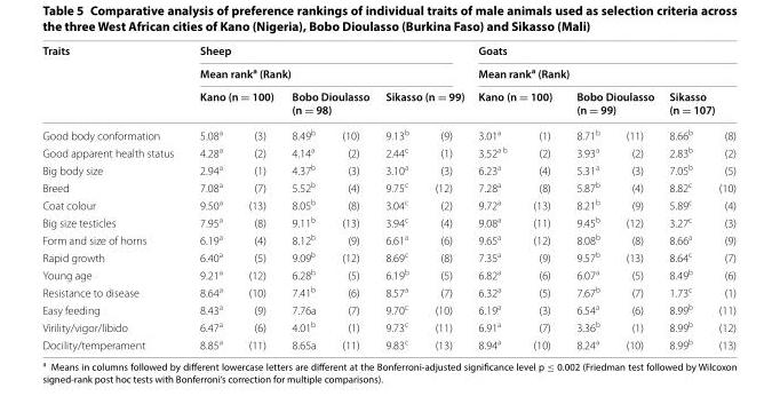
<table><thead><tr><td rowspan="4">Traits Good body conformation</td><td rowspan="2" colspan="6">Sheep Mean rank<sup>a</sup> (Rank)</td><td rowspan="2" colspan="6">Goats Mean rank<sup>a</sup> (Rank)</td></tr><tr></tr><tr><td colspan="2">Kano (n = 100)</td><td colspan="2">Bobo Dioulasso (n = 98)</td><td colspan="2">Sikasso (n = 99)</td><td colspan="2">Kano (n = 100)</td><td colspan="2">Bobo Dioulasso (n = 99)</td><td colspan="2">Sikasso (n = 107)</td></tr><tr><td>5.08<sup>a</sup></td><td>(3)</td><td>8.49<sup>b</sup></td><td>(10)</td><td>9.13<sup>b</sup></td><td>(9)</td><td>3.01<sup>a</sup></td><td>(1)</td><td>8.71<sup>b</sup></td><td>(11)</td><td>8.66<sup>b</sup></td><td>(8)</td></tr></thead><tbody><tr><td>Good apparent health status</td><td>4.28<sup>a</sup></td><td>(2)</td><td>4.14<sup>a</sup></td><td>(2)</td><td>2.44<sup>c</sup></td><td>(1)</td><td>3.52<sup>a b</sup></td><td>(2)</td><td>3.93<sup>a</sup></td><td>(2)</td><td>2.83<sup>b</sup></td><td>(2)</td></tr><tr><td>Big body size</td><td>2.94<sup>a</sup></td><td>(1)</td><td>4.37<sup>b</sup></td><td>(3)</td><td>3.10<sup>a</sup></td><td>(3)</td><td>6.23<sup>a</sup></td><td>(4)</td><td>5.31<sup>a</sup></td><td>(3)</td><td>7.05<sup>b</sup></td><td>(5)</td></tr><tr><td>Breed</td><td>7.08<sup>a</sup></td><td>(7)</td><td>5.52<sup>b</sup></td><td>(4)</td><td>9.75<sup>c</sup></td><td>(12)</td><td>7.28<sup>a</sup></td><td>(8)</td><td>5.87<sup>b</sup></td><td>(4)</td><td>8.82<sup>c</sup></td><td>(10)</td></tr><tr><td>Coat colour</td><td>9.50<sup>a</sup></td><td>(13)</td><td>8.05<sup>b</sup></td><td>(8)</td><td>3.04<sup>c</sup></td><td>(2)</td><td>9.72<sup>a</sup></td><td>(13)</td><td>8.21<sup>b</sup></td><td>(9)</td><td>5.89<sup>c</sup></td><td>(4)</td></tr><tr><td>Big size testicles</td><td>7.95<sup>a</sup></td><td>(8)</td><td>9.11<sup>b</sup></td><td>(13)</td><td>3.94<sup>c</sup></td><td>(4)</td><td>9.08<sup>a</sup></td><td>(11)</td><td>9.45<sup>b</sup></td><td>(12)</td><td>3.27<sup>c</sup></td><td>(3)</td></tr><tr><td>Form and size of horns</td><td>6.19<sup>a</sup></td><td>(4)</td><td>8.12<sup>b</sup></td><td>(9)</td><td>6.61<sup>a</sup></td><td>(6)</td><td>9.65<sup>a</sup></td><td>(12)</td><td>8.08<sup>b</sup></td><td>(8)</td><td>8.66<sup>a</sup></td><td>(9)</td></tr><tr><td>Rapid growth</td><td>6.40<sup>a</sup></td><td>(5)</td><td>9.09<sup>b</sup></td><td>(12)</td><td>8.69<sup>c</sup></td><td>(8)</td><td>7.35<sup>a</sup></td><td>(9)</td><td>9.57<sup>b</sup></td><td>(13)</td><td>8.64<sup>c</sup></td><td>(7)</td></tr><tr><td>Young age</td><td>9.21<sup>a</sup></td><td>(12)</td><td>6.28<sup>b</sup></td><td>(5)</td><td>6.19<sup>b</sup></td><td>(5)</td><td>6.82<sup>a</sup></td><td>(6)</td><td>6.07<sup>a</sup></td><td>(5)</td><td>8.49<sup>b</sup></td><td>(6)</td></tr><tr><td>Resistance to disease</td><td>8.64<sup>a</sup></td><td>(10)</td><td>7.41<sup>b</sup></td><td>(6)</td><td>8.57<sup>a</sup></td><td>(7)</td><td>6.32<sup>a</sup></td><td>(5)</td><td>7.67<sup>b</sup></td><td>(7)</td><td>1.73<sup>c</sup></td><td>(1)</td></tr><tr><td>Easy feeding</td><td>8.43<sup>a</sup></td><td>(9)</td><td>7.76a</td><td>(7)</td><td>9.70<sup>c</sup></td><td>(10)</td><td>6.19<sup>a</sup></td><td>(3)</td><td>6.54<sup>a</sup></td><td>(6)</td><td>8.99<sup>b</sup></td><td>(11)</td></tr><tr><td>Virility/vigor/libido</td><td>6.47<sup>a</sup></td><td>(6)</td><td>4.01<sup>b</sup></td><td>(1)</td><td>9.73<sup>c</sup></td><td>(11)</td><td>6.91<sup>a</sup></td><td>(7)</td><td>3.36<sup>b</sup></td><td>(1)</td><td>8.99<sup>b</sup></td><td>(12)</td></tr><tr><td>Docility/temperament</td><td>8.85<sup>a</sup></td><td>(11)</td><td>8.65a</td><td>(11)</td><td>9.83<sup>c</sup></td><td>(13)</td><td>8.94<sup>a</sup></td><td>(10)</td><td>8.24<sup>a</sup></td><td>(10)</td><td>8.99<sup>b</sup></td><td>(13)</td></tr></tbody></table>